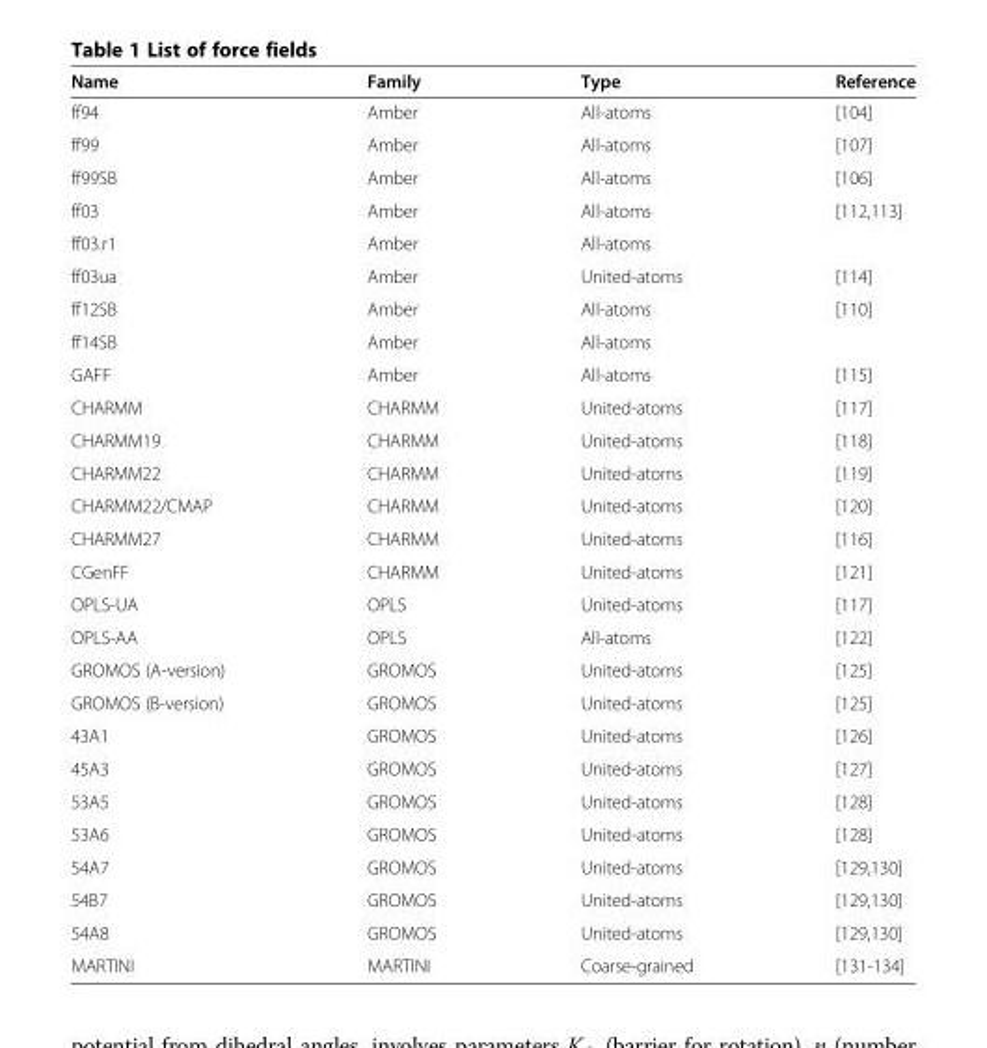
<table><thead><tr><td>Name</td><td>Family</td><td>Type</td><td>Reference</td></tr></thead><tbody><tr><td>ff94</td><td>Amber</td><td>All-atoms</td><td>[104]</td></tr><tr><td>ff99</td><td>Amber</td><td>All-atoms</td><td>[107]</td></tr><tr><td>ff99SB</td><td>Amber</td><td>All-atoms</td><td>[106]</td></tr><tr><td>ff03</td><td>Amber</td><td>All-atoms</td><td>[112,113]</td></tr><tr><td>ff03.r1</td><td>Amber</td><td>All-atoms</td><td></td></tr><tr><td>ff03ua</td><td>Amber</td><td>United-atoms</td><td>[114]</td></tr><tr><td>ff12SB</td><td>Amber</td><td>All-atoms</td><td>[110]</td></tr><tr><td>ff14SB</td><td>Amber</td><td>All-atoms</td><td></td></tr><tr><td>GAFF</td><td>Amber</td><td>All-atoms</td><td>[115]</td></tr><tr><td>CHARMM</td><td>CHARMM</td><td>United-atoms</td><td>[117]</td></tr><tr><td>CHARMM19</td><td>CHARMM</td><td>United-atoms</td><td>[118]</td></tr><tr><td>CHARMM22</td><td>CHARMM</td><td>United-atoms</td><td>[119]</td></tr><tr><td>CHARMM22/CMAP</td><td>CHARMM</td><td>United-atoms</td><td>[120]</td></tr><tr><td>CHARMM27</td><td>CHARMM</td><td>United-atoms</td><td>[116]</td></tr><tr><td>CGenFF</td><td>CHARMM</td><td>United-atoms</td><td>[121]</td></tr><tr><td>OPLS-UA</td><td>OPLS</td><td>United-atoms</td><td>[117]</td></tr><tr><td>OPLS-AA</td><td>OPLS</td><td>All-atoms</td><td>[122]</td></tr><tr><td>GROMOS (A-version)</td><td>GROMOS</td><td>United-atoms</td><td>[125]</td></tr><tr><td>GROMOS (B-version)</td><td>GROMOS</td><td>United-atoms</td><td>[125]</td></tr><tr><td>43A1</td><td>GROMOS</td><td>United-atoms</td><td>[126]</td></tr><tr><td>45A3</td><td>GROMOS</td><td>United-atoms</td><td>[127]</td></tr><tr><td>53A5</td><td>GROMOS</td><td>United-atoms</td><td>[128]</td></tr><tr><td>53A6</td><td>GROMOS</td><td>United-atoms</td><td>[128]</td></tr><tr><td>54A7</td><td>GROMOS</td><td>United-atoms</td><td>[129,130]</td></tr><tr><td>54B7</td><td>GROMOS</td><td>United-atoms</td><td>[129,130]</td></tr><tr><td>54A8</td><td>GROMOS</td><td>United-atoms</td><td>[129,130]</td></tr><tr><td>MARTINI</td><td>MARTINI</td><td>Coarse-grained</td><td>[131-134]</td></tr></tbody></table>